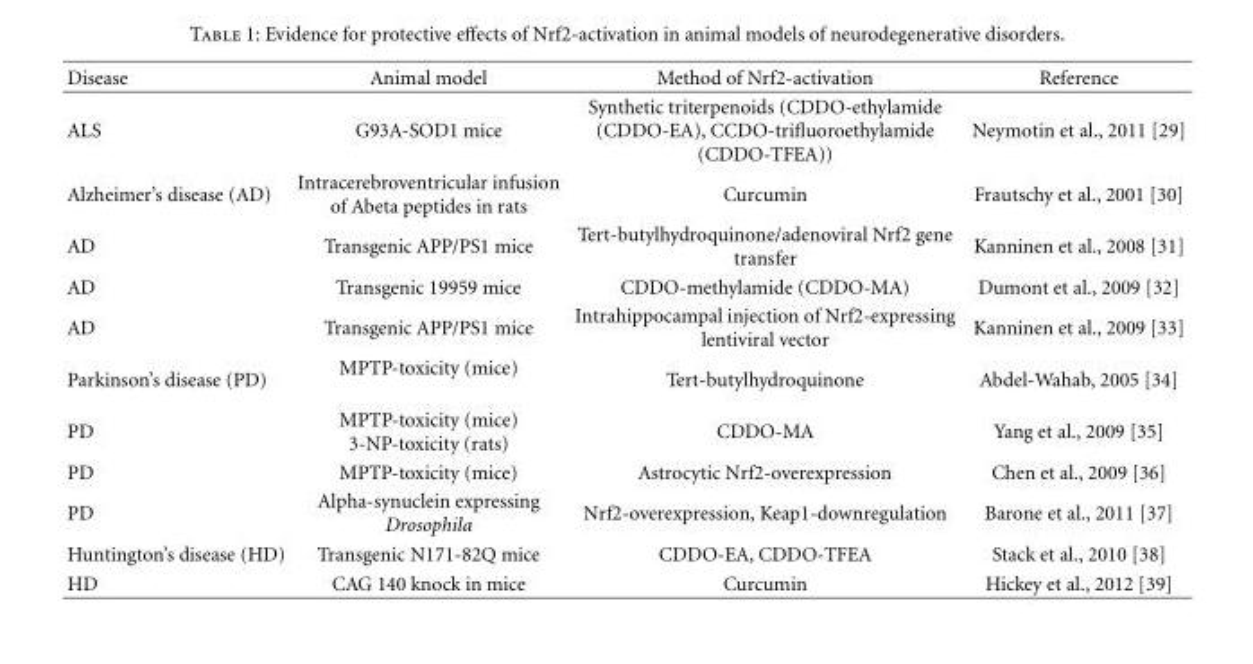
<table><thead><tr><td>Disease</td><td>Animal model</td><td>Method of Nrf2-activation</td><td>Reference</td></tr></thead><tbody><tr><td>ALS</td><td>G93A-SOD1 mice</td><td>Synthetic triterpenoids (CDDO-ethylamide (CDDO-EA), CCDO-trifluoroethylamide (CDDO-TFEA))</td><td>Neymotin et al., 2011 [29]</td></tr><tr><td>Alzheimer’s disease (AD)</td><td>Intracerebroventricular infusion of Abeta peptides in rats</td><td>Curcumin</td><td>Frautschy et al., 2001 [30]</td></tr><tr><td>AD</td><td>Transgenic APP/PS1 mice</td><td>Tert-butylhydroquinone/adenoviral Nrf2 gene transfer</td><td>Kanninen et al., 2008 [31]</td></tr><tr><td>AD</td><td>Transgenic 19959 mice</td><td>CDDO-methylamide (CDDO-MA)</td><td>Dumont et al., 2009 [32]</td></tr><tr><td>AD</td><td>Transgenic APP/PS1 mice</td><td>Intrahippocampal injection of Nrf2-expressing lentiviral vector</td><td>Kanninen et al., 2009 [33]</td></tr><tr><td>Parkinson’s disease (PD)</td><td>MPTP-toxicity (mice)</td><td>Tert-butylhydroquinone</td><td>Abdel-Wahab, 2005 [34]</td></tr><tr><td>PD</td><td>MPTP-toxicity (mice) 3-NP-toxicity (rats)</td><td>CDDO-MA</td><td>Yang et al., 2009 [35]</td></tr><tr><td>PD</td><td>MPTP-toxicity (mice)</td><td>Astrocytic Nrf2-overexpression</td><td>Chen et al., 2009 [36]</td></tr><tr><td>PD</td><td>Alpha-synuclein expressing Drosophila</td><td>Nrf2-overexpression, Keap1-downregulation</td><td>Barone et al., 2011 [37]</td></tr><tr><td>Huntington’s disease (HD)</td><td>Transgenic N171-82Q mice</td><td>CDDO-EA, CDDO-TFEA</td><td>Stack et al., 2010 [38]</td></tr><tr><td>HD</td><td>CAG 140 knock in mice</td><td>Curcumin</td><td>Hickey et al., 2012 [39]</td></tr></tbody></table>